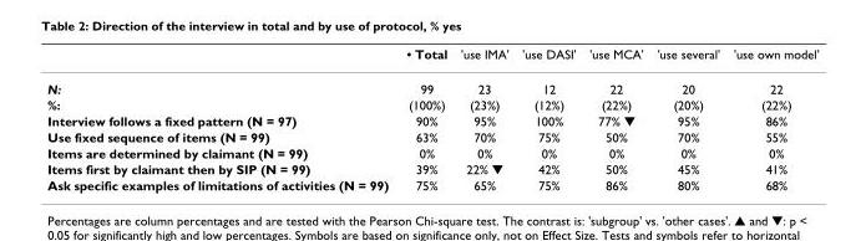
<table><thead><tr><td></td><td>• Total</td><td>&#x27;use IMA&#x27;</td><td>&#x27;use DASI&#x27;</td><td>&#x27;use MCA&#x27;</td><td>&#x27;use several&#x27;</td><td>&#x27;use own model&#x27;</td></tr></thead><tbody><tr><td>N:</td><td>99</td><td>23</td><td>12</td><td>22</td><td>20</td><td>22</td></tr><tr><td>%:</td><td>(100%)</td><td>(23%)</td><td>(12%)</td><td>(22%)</td><td>(20%)</td><td>(22%)</td></tr><tr><td>Interview follows a fixed pattern (N = 97)</td><td>90%</td><td>95%</td><td>100%</td><td>77% ▼</td><td>95%</td><td>86%</td></tr><tr><td>Use fixed sequence of items (N = 99)</td><td>63%</td><td>70%</td><td>75%</td><td>50%</td><td>70%</td><td>55%</td></tr><tr><td>Items are determined by claimant (N = 99)</td><td>0%</td><td>0%</td><td>0%</td><td>0%</td><td>0%</td><td>0%</td></tr><tr><td>Items first by claimant then by SIP (N = 99)</td><td>39%</td><td>22% ▼</td><td>42%</td><td>50%</td><td>45%</td><td>41%</td></tr><tr><td>Ask specific examples of limitations of activities (N = 99)</td><td>75%</td><td>65%</td><td>75%</td><td>86%</td><td>80%</td><td>68%</td></tr></tbody></table>